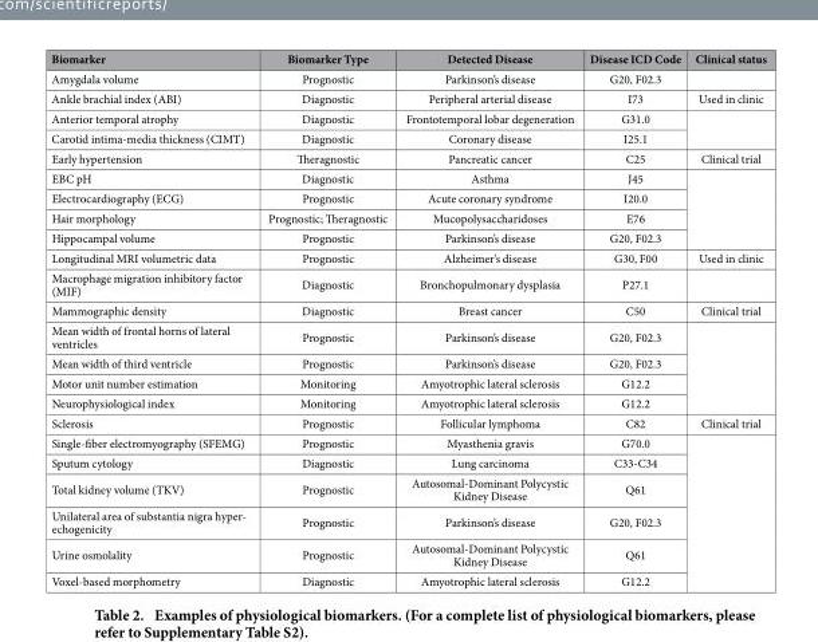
<table><thead><tr><td>Biomarker</td><td>Biomarker Type</td><td>Detected Disease</td><td>Disease ICD Code</td><td>Clinical status</td></tr></thead><tbody><tr><td>Amygdala volume</td><td>Prognostic</td><td>Parkinson’s disease</td><td>G20, F02.3</td><td></td></tr><tr><td>Ankle brachial index (ABI)</td><td>Diagnostic</td><td>Peripheral arterial disease</td><td>I73</td><td>Used in clinic</td></tr><tr><td>Anterior temporal atrophy</td><td>Diagnostic</td><td>Frontotemporal lobar degeneration</td><td>G31.0</td><td rowspan="2"></td></tr><tr><td>Carotid intima-media thickness (CIMT)</td><td>Diagnostic</td><td>Coronary disease</td><td>I25.1</td></tr><tr><td>Early hypertension</td><td>Theragnostic</td><td>Pancreatic cancer</td><td>C25</td><td>Clinical trial</td></tr><tr><td>EBC pH</td><td>Diagnostic</td><td>Asthma</td><td>J45</td><td rowspan="4"></td></tr><tr><td>Electrocardiography (ECG)</td><td>Prognostic</td><td>Acute coronary syndrome</td><td>I20.0</td></tr><tr><td>Hair morphology</td><td>Prognostic; Theragnostic</td><td>Mucopolysaccharidoses</td><td>E76</td></tr><tr><td>Hippocampal volume</td><td>Prognostic</td><td>Parkinson’s disease</td><td>G20, F02.3</td></tr><tr><td>Longitudinal MRI volumetric data</td><td>Prognostic</td><td>Alzheimer’s disease</td><td>G30, F00</td><td>Used in clinic</td></tr><tr><td>Macrophage migration inhibitory factor (MIF)</td><td>Diagnostic</td><td>Bronchopulmonary dysplasia</td><td>P27.1</td><td></td></tr><tr><td>Mammographic density</td><td>Diagnostic</td><td>Breast cancer</td><td>C50</td><td>Clinical trial</td></tr><tr><td>Mean width of frontal horns of lateral ventricles</td><td>Prognostic</td><td>Parkinson’s disease</td><td>G20, F02.3</td><td rowspan="4"></td></tr><tr><td>Mean width of third ventricle</td><td>Prognostic</td><td>Parkinson’s disease</td><td>G20, F02.3</td></tr><tr><td>Motor unit number estimation</td><td>Monitoring</td><td>Amyotrophic lateral sclerosis</td><td>G12.2</td></tr><tr><td>Neurophysiological index</td><td>Monitoring</td><td>Amyotrophic lateral sclerosis</td><td>G12.2</td></tr><tr><td>Sclerosis</td><td>Prognostic</td><td>Follicular lymphoma</td><td>C82</td><td>Clinical trial</td></tr><tr><td>Single-fiber electromyography (SFEMG)</td><td>Prognostic</td><td>Myasthenia gravis</td><td>G70.0</td><td rowspan="6"></td></tr><tr><td>Sputum cytology</td><td>Diagnostic</td><td>Lung carcinoma</td><td>C33-C34</td></tr><tr><td>Total kidney volume (TKV)</td><td>Prognostic</td><td>Autosomal-Dominant Polycystic Kidney Disease</td><td>Q61</td></tr><tr><td>Unilateral area of substantia nigra hyper- echogenicity</td><td>Prognostic</td><td>Parkinson’s disease</td><td>G20, F02.3</td></tr><tr><td>Urine osmolality</td><td>Prognostic</td><td>Autosomal-Dominant Polycystic Kidney Disease</td><td>Q61</td></tr><tr><td>Voxel-based morphometry</td><td>Diagnostic</td><td>Amyotrophic lateral sclerosis</td><td>G12.2</td></tr></tbody></table>